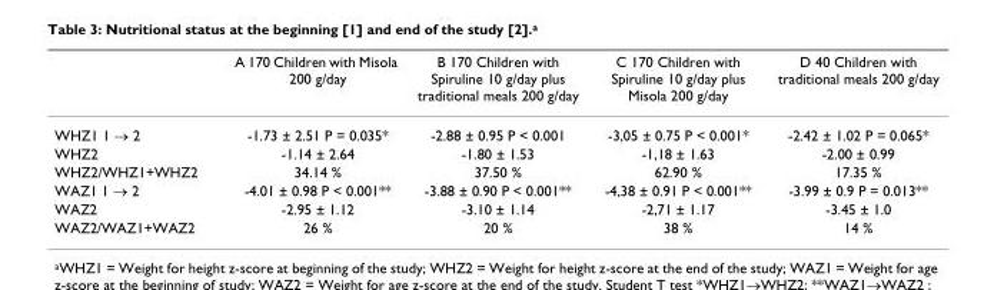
<table><thead><tr><td></td><td>A 170 Children with Misola 200 g/day</td><td>B 170 Children with Spiruline 10 g/day plus traditional meals 200 g/day</td><td>C 170 Children with Spiruline 10 g/day plus Misola 200 g/day</td><td>D 40 Children with traditional meals 200 g/day</td></tr></thead><tbody><tr><td>WHZ1 1 → 2</td><td>-1.73 ± 2.51 P = 0.035*</td><td>-2.88 ± 0.95 P &lt; 0.001</td><td>-3,05 ± 0.75 P &lt; 0.001*</td><td>-2.42 ± 1.02 P = 0.065*</td></tr><tr><td>WHZ2</td><td>-1.14 ± 2.64</td><td>-1.80 ± 1.53</td><td>-1,18 ± 1.63</td><td>-2.00 ± 0.99</td></tr><tr><td>WHZ2/WHZ1+WHZ2</td><td>34.14 %</td><td>37.50 %</td><td>62.90 %</td><td>17.35 %</td></tr><tr><td>WAZ1 1 → 2</td><td>-4.01 ± 0.98 P &lt; 0.001**</td><td>-3.88 ± 0.90 P &lt; 0.001**</td><td>-4,38 ± 0.91 P &lt; 0.001**</td><td>-3.99 ± 0.9 P = 0.013**</td></tr><tr><td>WAZ2</td><td>-2.95 ± 1.12</td><td>-3.10 ± 1.14</td><td>-2,71 ± 1.17</td><td>-3.45 ± 1.0</td></tr><tr><td>WAZ2/WAZ1+WAZ2</td><td>26 %</td><td>20 %</td><td>38 %</td><td>14 %</td></tr></tbody></table>